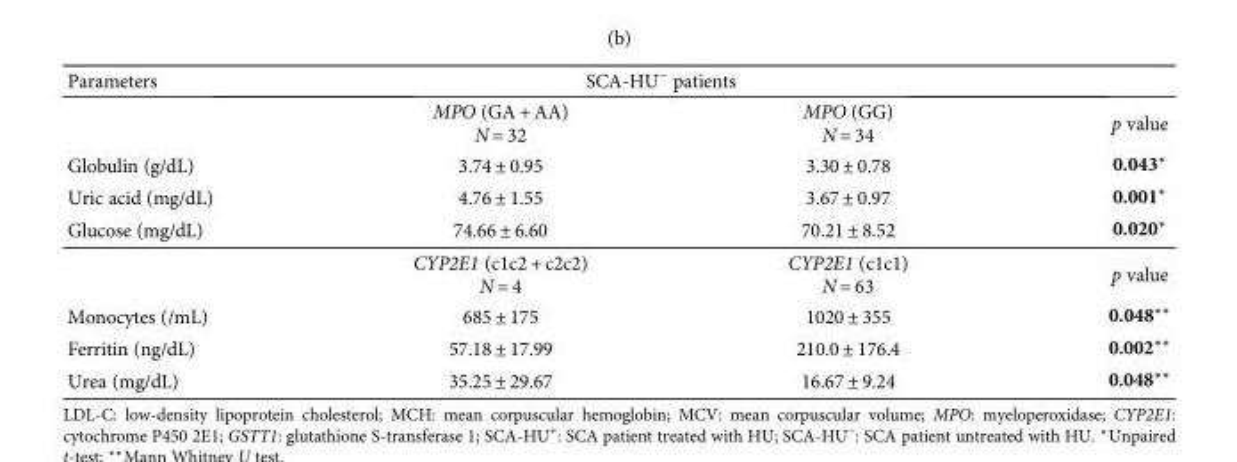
<table><thead><tr><td rowspan="2">Parameters</td><td colspan="2">SCA-HU<sup>−</sup> patients</td><td rowspan="2">p value</td></tr><tr><td>MPO (GA + AA) N = 32</td><td>MPO (GG) N = 34</td></tr></thead><tbody><tr><td>Globulin (g/dL)</td><td>3.74 ± 0.95</td><td>3.30 ± 0.78</td><td>0.043∗</td></tr><tr><td>Uric acid (mg/dL)</td><td>4.76 ± 1.55</td><td>3.67 ± 0.97</td><td>0.001∗</td></tr><tr><td rowspan="2">Glucose (mg/dL)</td><td>74.66 ± 6.60</td><td>70.21 ± 8.52</td><td>0.020∗</td></tr><tr><td>CYP2E1 (c1c2 + c2c2) N = 4</td><td>CYP2E1 (c1c1) N = 63</td><td>p value</td></tr><tr><td>Monocytes (/mL)</td><td>685 ± 175</td><td>1020 ± 355</td><td>0.048∗∗</td></tr><tr><td>Ferritin (ng/dL)</td><td>57.18 ± 17.99</td><td>210.0 ± 176.4</td><td>0.002∗∗</td></tr><tr><td>Urea (mg/dL)</td><td>35.25 ± 29.67</td><td>16.67 ± 9.24</td><td>0.048∗∗</td></tr></tbody></table>